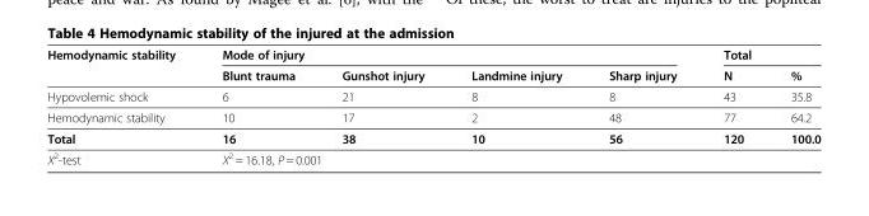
<table><thead><tr><td rowspan="2">Hemodynamic stability</td><td colspan="4">Mode of injury</td><td colspan="2">Total</td></tr><tr><td>Blunt trauma</td><td>Gunshot injury</td><td>Landmine injury</td><td>Sharp injury</td><td>N</td><td>%</td></tr></thead><tbody><tr><td>Hypovolemic shock</td><td>6</td><td>21</td><td>8</td><td>8</td><td>43</td><td>35.8</td></tr><tr><td>Hemodynamic stability</td><td>10</td><td>17</td><td>2</td><td>48</td><td>77</td><td>64.2</td></tr><tr><td>Total</td><td>16</td><td>38</td><td>10</td><td>56</td><td>120</td><td>100.0</td></tr><tr><td>X<sup>2</sup>-test</td><td colspan="4">X<sup>2</sup> = 16.18, P = 0.001</td><td colspan="2"></td></tr></tbody></table>